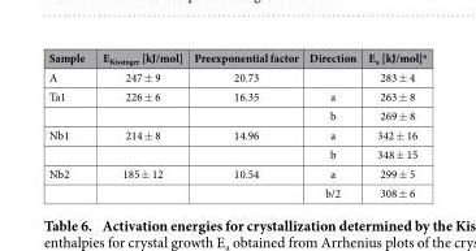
<table><thead><tr><td>Sample</td><td>E<sub>Kissinger</sub> [kJ/mol]</td><td>Preexponential factor</td><td>Direction</td><td>E<sub>a</sub> [kJ/mol]<sup>a</sup></td></tr></thead><tbody><tr><td>A</td><td>247 ± 9</td><td>20.73</td><td></td><td>283 ± 4</td></tr><tr><td rowspan="2">Ta1</td><td>226 ± 6</td><td>16.35</td><td>a</td><td>263 ± 8</td></tr><tr><td></td><td></td><td>b</td><td>269 ± 8</td></tr><tr><td rowspan="2">Nb1</td><td>214 ± 8</td><td>14.96</td><td>a</td><td>342 ± 16</td></tr><tr><td></td><td></td><td>b</td><td>348 ± 15</td></tr><tr><td rowspan="2">Nb2</td><td>185 ± 12</td><td>10.54</td><td>a</td><td>299 ± 5</td></tr><tr><td></td><td></td><td>b/2</td><td>308 ± 6</td></tr></tbody></table>